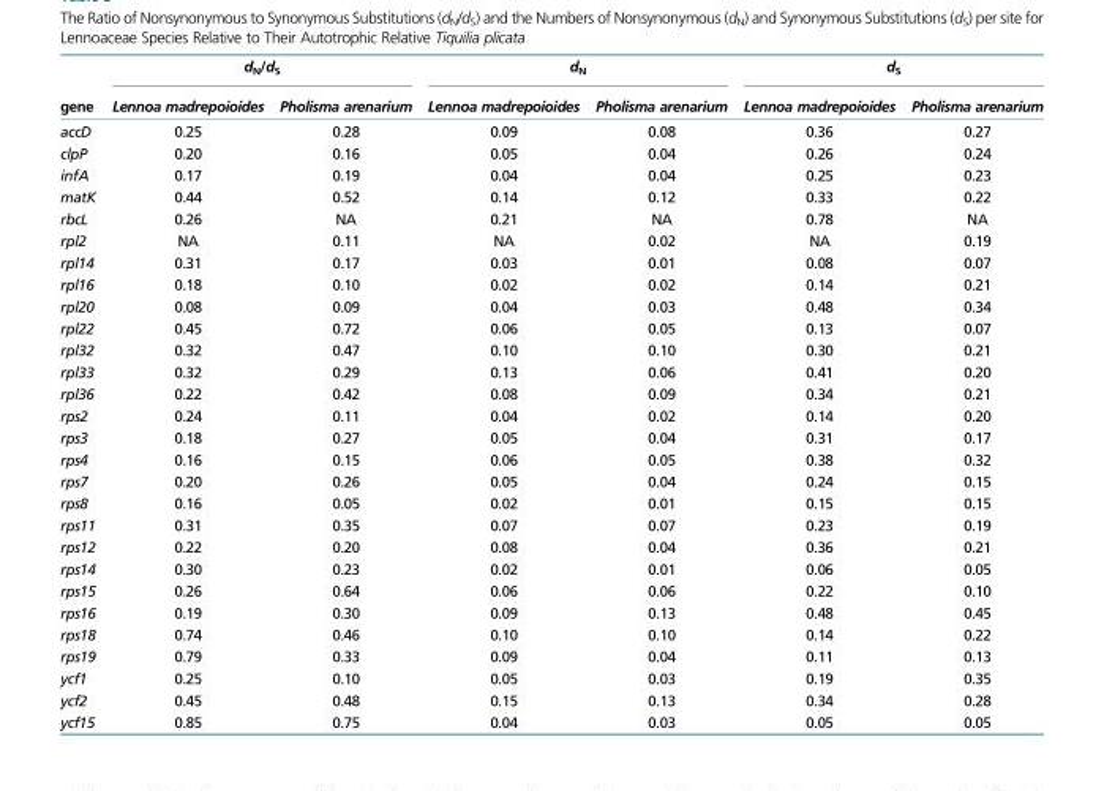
<table><thead><tr><td rowspan="2">gene</td><td colspan="2">d<sub>N</sub>/d<sub>S</sub></td><td colspan="2">d<sub>N</sub></td><td colspan="2">d<sub>S</sub></td></tr><tr><td>Lennoa madrepoioides</td><td>Pholisma arenarium</td><td>Lennoa madrepoioides</td><td>Pholisma arenarium</td><td>Lennoa madrepoioides</td><td>Pholisma arenarium</td></tr></thead><tbody><tr><td>accD</td><td>0.25</td><td>0.28</td><td>0.09</td><td>0.08</td><td>0.36</td><td>0.27</td></tr><tr><td>clpP</td><td>0.20</td><td>0.16</td><td>0.05</td><td>0.04</td><td>0.26</td><td>0.24</td></tr><tr><td>infA</td><td>0.17</td><td>0.19</td><td>0.04</td><td>0.04</td><td>0.25</td><td>0.23</td></tr><tr><td>matK</td><td>0.44</td><td>0.52</td><td>0.14</td><td>0.12</td><td>0.33</td><td>0.22</td></tr><tr><td>rbcL</td><td>0.26</td><td>NA</td><td>0.21</td><td>NA</td><td>0.78</td><td>NA</td></tr><tr><td>rpl2</td><td>NA</td><td>0.11</td><td>NA</td><td>0.02</td><td>NA</td><td>0.19</td></tr><tr><td>rpl14</td><td>0.31</td><td>0.17</td><td>0.03</td><td>0.01</td><td>0.08</td><td>0.07</td></tr><tr><td>rpl16</td><td>0.18</td><td>0.10</td><td>0.02</td><td>0.02</td><td>0.14</td><td>0.21</td></tr><tr><td>rpl20</td><td>0.08</td><td>0.09</td><td>0.04</td><td>0.03</td><td>0.48</td><td>0.34</td></tr><tr><td>rpl22</td><td>0.45</td><td>0.72</td><td>0.06</td><td>0.05</td><td>0.13</td><td>0.07</td></tr><tr><td>rpl32</td><td>0.32</td><td>0.47</td><td>0.10</td><td>0.10</td><td>0.30</td><td>0.21</td></tr><tr><td>rpl33</td><td>0.32</td><td>0.29</td><td>0.13</td><td>0.06</td><td>0.41</td><td>0.20</td></tr><tr><td>rpl36</td><td>0.22</td><td>0.42</td><td>0.08</td><td>0.09</td><td>0.34</td><td>0.21</td></tr><tr><td>rps2</td><td>0.24</td><td>0.11</td><td>0.04</td><td>0.02</td><td>0.14</td><td>0.20</td></tr><tr><td>rps3</td><td>0.18</td><td>0.27</td><td>0.05</td><td>0.04</td><td>0.31</td><td>0.17</td></tr><tr><td>rps4</td><td>0.16</td><td>0.15</td><td>0.06</td><td>0.05</td><td>0.38</td><td>0.32</td></tr><tr><td>rps7</td><td>0.20</td><td>0.26</td><td>0.05</td><td>0.04</td><td>0.24</td><td>0.15</td></tr><tr><td>rps8</td><td>0.16</td><td>0.05</td><td>0.02</td><td>0.01</td><td>0.15</td><td>0.15</td></tr><tr><td>rps11</td><td>0.31</td><td>0.35</td><td>0.07</td><td>0.07</td><td>0.23</td><td>0.19</td></tr><tr><td>rps12</td><td>0.22</td><td>0.20</td><td>0.08</td><td>0.04</td><td>0.36</td><td>0.21</td></tr><tr><td>rps14</td><td>0.30</td><td>0.23</td><td>0.02</td><td>0.01</td><td>0.06</td><td>0.05</td></tr><tr><td>rps15</td><td>0.26</td><td>0.64</td><td>0.06</td><td>0.06</td><td>0.22</td><td>0.10</td></tr><tr><td>rps16</td><td>0.19</td><td>0.30</td><td>0.09</td><td>0.13</td><td>0.48</td><td>0.45</td></tr><tr><td>rps18</td><td>0.74</td><td>0.46</td><td>0.10</td><td>0.10</td><td>0.14</td><td>0.22</td></tr><tr><td>rps19</td><td>0.79</td><td>0.33</td><td>0.09</td><td>0.04</td><td>0.11</td><td>0.13</td></tr><tr><td>ycf1</td><td>0.25</td><td>0.10</td><td>0.05</td><td>0.03</td><td>0.19</td><td>0.35</td></tr><tr><td>ycf2</td><td>0.45</td><td>0.48</td><td>0.15</td><td>0.13</td><td>0.34</td><td>0.28</td></tr><tr><td>ycf15</td><td>0.85</td><td>0.75</td><td>0.04</td><td>0.03</td><td>0.05</td><td>0.05</td></tr></tbody></table>